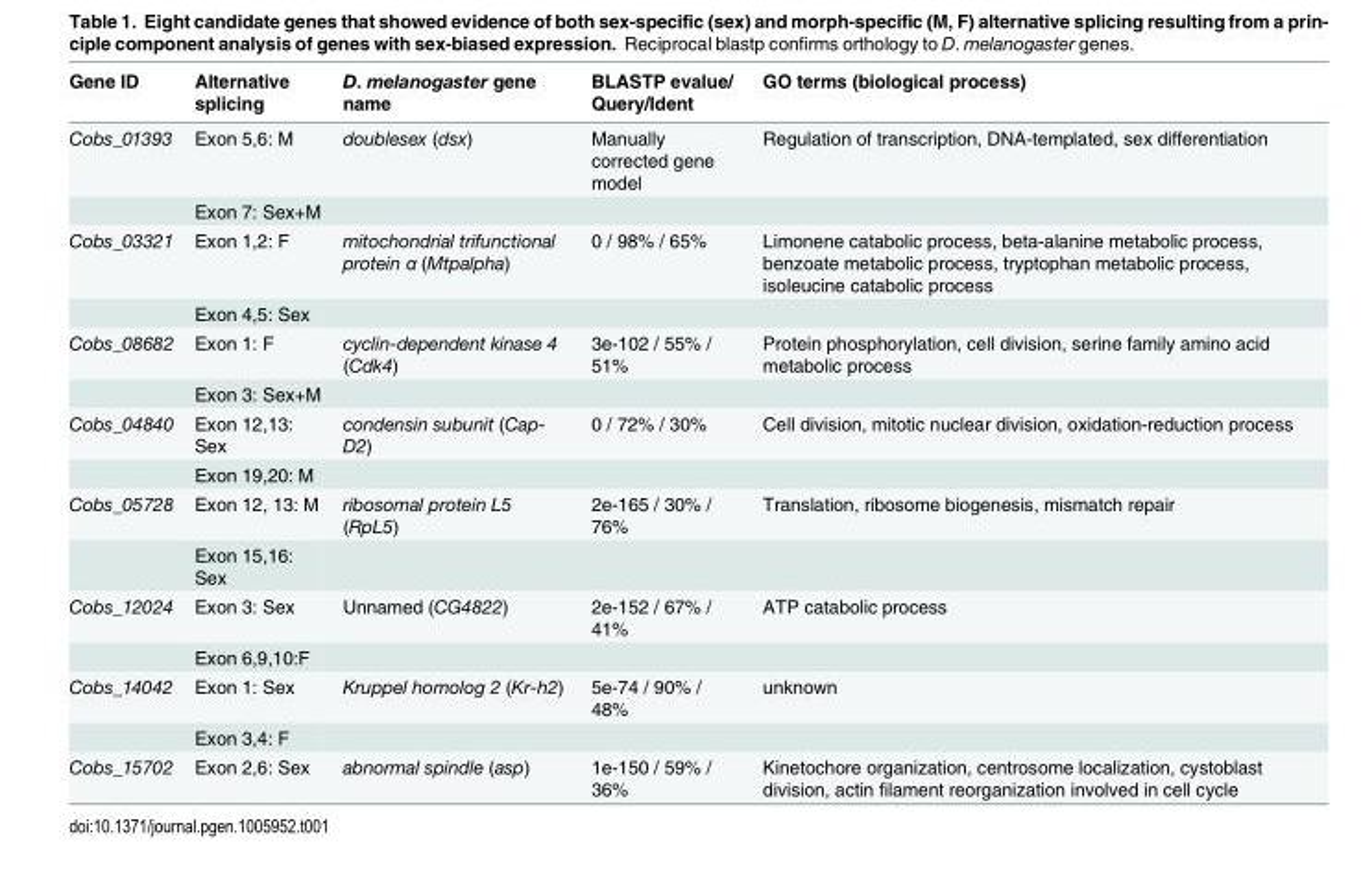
<table><thead><tr><td>Gene ID</td><td>Alternative splicing</td><td>D. melanogaster gene name</td><td>BLASTP evalue/ Query/Ident</td><td>GO terms (biological process)</td></tr></thead><tbody><tr><td rowspan="2">Cobs_01393</td><td>Exon 5,6: M</td><td>doublesex (dsx)</td><td>Manually corrected gene model</td><td>Regulation of transcription, DNA-templated, sex differentiation</td></tr><tr><td>Exon 7: Sex+M</td><td></td><td></td><td></td></tr><tr><td rowspan="2">Cobs_03321</td><td>Exon 1,2: F</td><td>mitochondrial trifunctional protein α (Mtpalpha)</td><td>0 / 98% / 65%</td><td>Limonene catabolic process, beta-alanine metabolic process, benzoate metabolic process, tryptophan metabolic process, isoleucine catabolic process</td></tr><tr><td>Exon 4,5: Sex</td><td></td><td></td><td></td></tr><tr><td rowspan="2">Cobs_08682</td><td>Exon 1: F</td><td>cyclin-dependent kinase 4 (Cdk4)</td><td>3e-102 / 55% / 51%</td><td>Protein phosphorylation, cell division, serine family amino acid metabolic process</td></tr><tr><td>Exon 3: Sex+M</td><td></td><td></td><td></td></tr><tr><td rowspan="2">Cobs_04840</td><td>Exon 12,13: Sex</td><td>condensin subunit (Cap- D2)</td><td>0 / 72% / 30%</td><td>Cell division, mitotic nuclear division, oxidation-reduction process</td></tr><tr><td>Exon 19,20: M</td><td></td><td></td><td></td></tr><tr><td rowspan="2">Cobs_05728</td><td>Exon 12, 13: M</td><td>ribosomal protein L5 (RpL5)</td><td>2e-165 / 30% / 76%</td><td>Translation, ribosome biogenesis, mismatch repair</td></tr><tr><td>Exon 15,16: Sex</td><td></td><td></td><td></td></tr><tr><td rowspan="2">Cobs_12024</td><td>Exon 3: Sex</td><td>Unnamed (CG4822)</td><td>2e-152 / 67% / 41%</td><td>ATP catabolic process</td></tr><tr><td>Exon 6,9,10:F</td><td></td><td></td><td></td></tr><tr><td rowspan="2">Cobs_14042</td><td>Exon 1: Sex</td><td>Kruppel homolog 2 (Kr-h2)</td><td>5e-74 / 90% / 48%</td><td>unknown</td></tr><tr><td>Exon 3,4: F</td><td></td><td></td><td></td></tr><tr><td>Cobs_15702</td><td>Exon 2,6: Sex</td><td>abnormal spindle (asp)</td><td>1e-150 / 59% / 36%</td><td>Kinetochore organization, centrosome localization, cystoblast division, actin filament reorganization involved in cell cycle</td></tr></tbody></table>